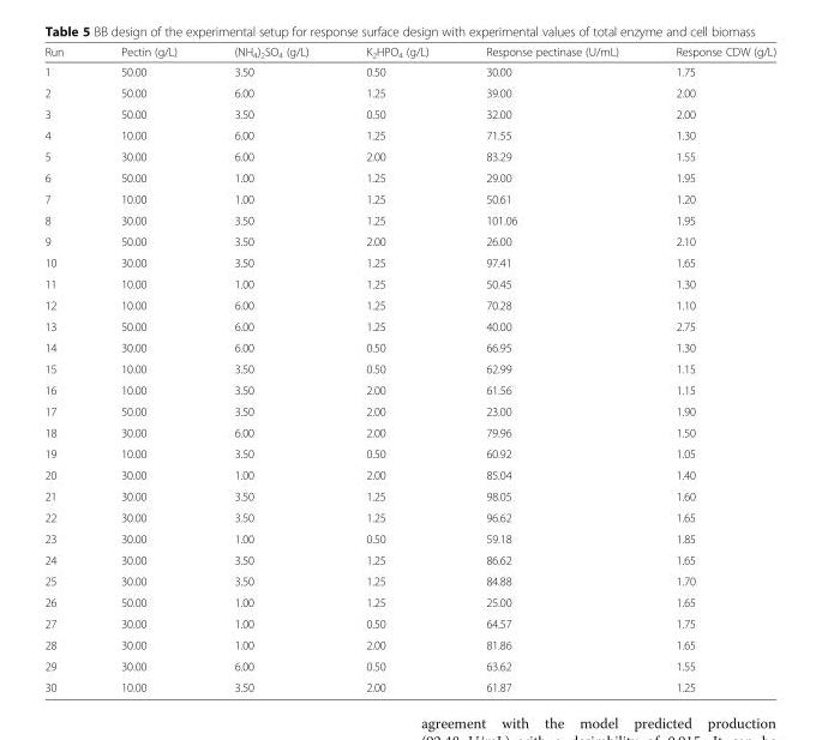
<table><thead><tr><td>Run</td><td>Pectin (g/L)</td><td>(NH<sub>4</sub>)<sub>2</sub>SO<sub>4</sub> (g/L)</td><td>K<sub>2</sub>HPO<sub>4</sub> (g/L)</td><td>Response pectinase (U/mL)</td><td>Response CDW (g/L)</td></tr></thead><tbody><tr><td>1</td><td>50.00</td><td>3.50</td><td>0.50</td><td>30.00</td><td>1.75</td></tr><tr><td>2</td><td>50.00</td><td>6.00</td><td>1.25</td><td>39.00</td><td>2.00</td></tr><tr><td>3</td><td>50.00</td><td>3.50</td><td>0.50</td><td>32.00</td><td>2.00</td></tr><tr><td>4</td><td>10.00</td><td>6.00</td><td>1.25</td><td>71.55</td><td>1.30</td></tr><tr><td>5</td><td>30.00</td><td>6.00</td><td>2.00</td><td>83.29</td><td>1.55</td></tr><tr><td>6</td><td>50.00</td><td>1.00</td><td>1.25</td><td>29.00</td><td>1.95</td></tr><tr><td>7</td><td>10.00</td><td>1.00</td><td>1.25</td><td>50.61</td><td>1.20</td></tr><tr><td>8</td><td>30.00</td><td>3.50</td><td>1.25</td><td>101.06</td><td>1.95</td></tr><tr><td>9</td><td>50.00</td><td>3.50</td><td>2.00</td><td>26.00</td><td>2.10</td></tr><tr><td>10</td><td>30.00</td><td>3.50</td><td>1.25</td><td>97.41</td><td>1.65</td></tr><tr><td>11</td><td>10.00</td><td>1.00</td><td>1.25</td><td>50.45</td><td>1.30</td></tr><tr><td>12</td><td>10.00</td><td>6.00</td><td>1.25</td><td>70.28</td><td>1.10</td></tr><tr><td>13</td><td>50.00</td><td>6.00</td><td>1.25</td><td>40.00</td><td>2.75</td></tr><tr><td>14</td><td>30.00</td><td>6.00</td><td>0.50</td><td>66.95</td><td>1.30</td></tr><tr><td>15</td><td>10.00</td><td>3.50</td><td>0.50</td><td>62.99</td><td>1.15</td></tr><tr><td>16</td><td>10.00</td><td>3.50</td><td>2.00</td><td>61.56</td><td>1.15</td></tr><tr><td>17</td><td>50.00</td><td>3.50</td><td>2.00</td><td>23.00</td><td>1.90</td></tr><tr><td>18</td><td>30.00</td><td>6.00</td><td>2.00</td><td>79.96</td><td>1.50</td></tr><tr><td>19</td><td>10.00</td><td>3.50</td><td>0.50</td><td>60.92</td><td>1.05</td></tr><tr><td>20</td><td>30.00</td><td>1.00</td><td>2.00</td><td>85.04</td><td>1.40</td></tr><tr><td>21</td><td>30.00</td><td>3.50</td><td>1.25</td><td>98.05</td><td>1.60</td></tr><tr><td>22</td><td>30.00</td><td>3.50</td><td>1.25</td><td>96.62</td><td>1.65</td></tr><tr><td>23</td><td>30.00</td><td>1.00</td><td>0.50</td><td>59.18</td><td>1.85</td></tr><tr><td>24</td><td>30.00</td><td>3.50</td><td>1.25</td><td>86.62</td><td>1.65</td></tr><tr><td>25</td><td>30.00</td><td>3.50</td><td>1.25</td><td>84.88</td><td>1.70</td></tr><tr><td>26</td><td>50.00</td><td>1.00</td><td>1.25</td><td>25.00</td><td>1.65</td></tr><tr><td>27</td><td>30.00</td><td>1.00</td><td>0.50</td><td>64.57</td><td>1.75</td></tr><tr><td>28</td><td>30.00</td><td>1.00</td><td>2.00</td><td>81.86</td><td>1.65</td></tr><tr><td>29</td><td>30.00</td><td>6.00</td><td>0.50</td><td>63.62</td><td>1.55</td></tr><tr><td>30</td><td>10.00</td><td>3.50</td><td>2.00</td><td>61.87</td><td>1.25</td></tr></tbody></table>